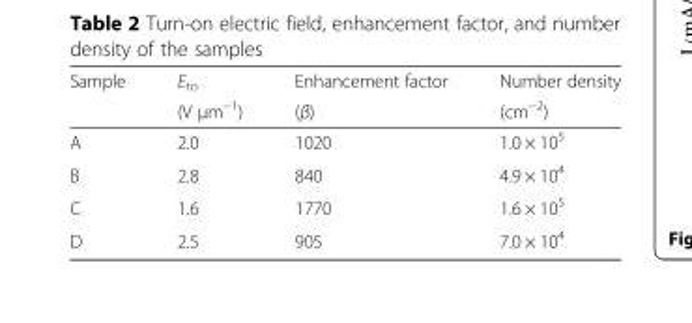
<table><thead><tr><td rowspan="2">Sample</td><td rowspan="2">E<sub>to</sub> (V μm<sup>−1</sup>)</td><td rowspan="2">Enhancement factor (β)</td><td rowspan="2">Number density (cm<sup>−2</sup>)</td></tr><tr></tr></thead><tbody><tr><td>A</td><td>2.0</td><td>1020</td><td>1.0 × 10<sup>5</sup></td></tr><tr><td>B</td><td>2.8</td><td>840</td><td>4.9 × 10<sup>4</sup></td></tr><tr><td>C</td><td>1.6</td><td>1770</td><td>1.6 × 10<sup>5</sup></td></tr><tr><td>D</td><td>2.5</td><td>905</td><td>7.0 × 10<sup>4</sup></td></tr></tbody></table>